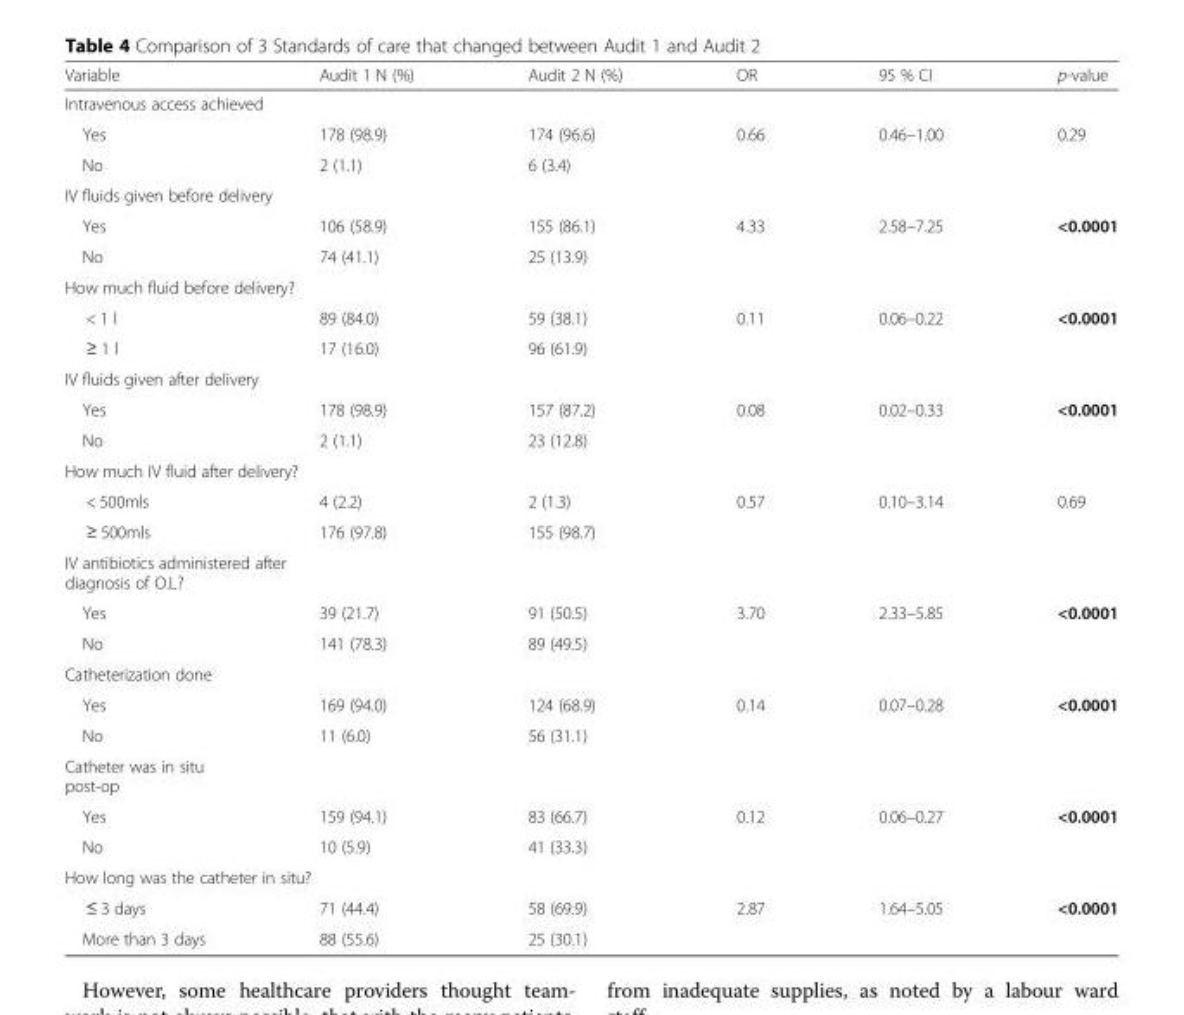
<table><thead><tr><td>Variable</td><td>Audit 1 N (%)</td><td>Audit 2 N (%)</td><td>OR</td><td>95 % CI</td><td>p-value</td></tr></thead><tbody><tr><td colspan="6">Intravenous access achieved</td></tr><tr><td>Yes</td><td>178 (98.9)</td><td>174 (96.6)</td><td>0.66</td><td>0.46–1.00</td><td>0.29</td></tr><tr><td>No</td><td>2 (1.1)</td><td>6 (3.4)</td><td></td><td></td><td></td></tr><tr><td colspan="6">IV fluids given before delivery</td></tr><tr><td>Yes</td><td>106 (58.9)</td><td>155 (86.1)</td><td>4.33</td><td>2.58–7.25</td><td>&lt;0.0001</td></tr><tr><td>No</td><td>74 (41.1)</td><td>25 (13.9)</td><td></td><td></td><td></td></tr><tr><td colspan="6">How much fluid before delivery?</td></tr><tr><td>&lt; 1 l</td><td>89 (84.0)</td><td>59 (38.1)</td><td>0.11</td><td>0.06–0.22</td><td>&lt;0.0001</td></tr><tr><td>≥ 1 l</td><td>17 (16.0)</td><td>96 (61.9)</td><td></td><td></td><td></td></tr><tr><td colspan="6">IV fluids given after delivery</td></tr><tr><td>Yes</td><td>178 (98.9)</td><td>157 (87.2)</td><td>0.08</td><td>0.02–0.33</td><td>&lt;0.0001</td></tr><tr><td>No</td><td>2 (1.1)</td><td>23 (12.8)</td><td></td><td></td><td></td></tr><tr><td colspan="6">How much IV fluid after delivery?</td></tr><tr><td>&lt; 500mls</td><td>4 (2.2)</td><td>2 (1.3)</td><td>0.57</td><td>0.10–3.14</td><td>0.69</td></tr><tr><td>≥ 500mls</td><td>176 (97.8)</td><td>155 (98.7)</td><td></td><td></td><td></td></tr><tr><td colspan="6">IV antibiotics administered after diagnosis of O.L?</td></tr><tr><td>Yes</td><td>39 (21.7)</td><td>91 (50.5)</td><td>3.70</td><td>2.33–5.85</td><td>&lt;0.0001</td></tr><tr><td>No</td><td>141 (78.3)</td><td>89 (49.5)</td><td></td><td></td><td></td></tr><tr><td colspan="6">Catheterization done</td></tr><tr><td>Yes</td><td>169 (94.0)</td><td>124 (68.9)</td><td>0.14</td><td>0.07–0.28</td><td>&lt;0.0001</td></tr><tr><td>No</td><td>11 (6.0)</td><td>56 (31.1)</td><td></td><td></td><td></td></tr><tr><td colspan="6">Catheter was in situ post-op</td></tr><tr><td>Yes</td><td>159 (94.1)</td><td>83 (66.7)</td><td>0.12</td><td>0.06–0.27</td><td>&lt;0.0001</td></tr><tr><td>No</td><td>10 (5.9)</td><td>41 (33.3)</td><td></td><td></td><td></td></tr><tr><td colspan="6">How long was the catheter in situ?</td></tr><tr><td>≤ 3 days</td><td>71 (44.4)</td><td>58 (69.9)</td><td>2.87</td><td>1.64–5.05</td><td>&lt;0.0001</td></tr><tr><td>More than 3 days</td><td>88 (55.6)</td><td>25 (30.1)</td><td></td><td></td><td></td></tr></tbody></table>